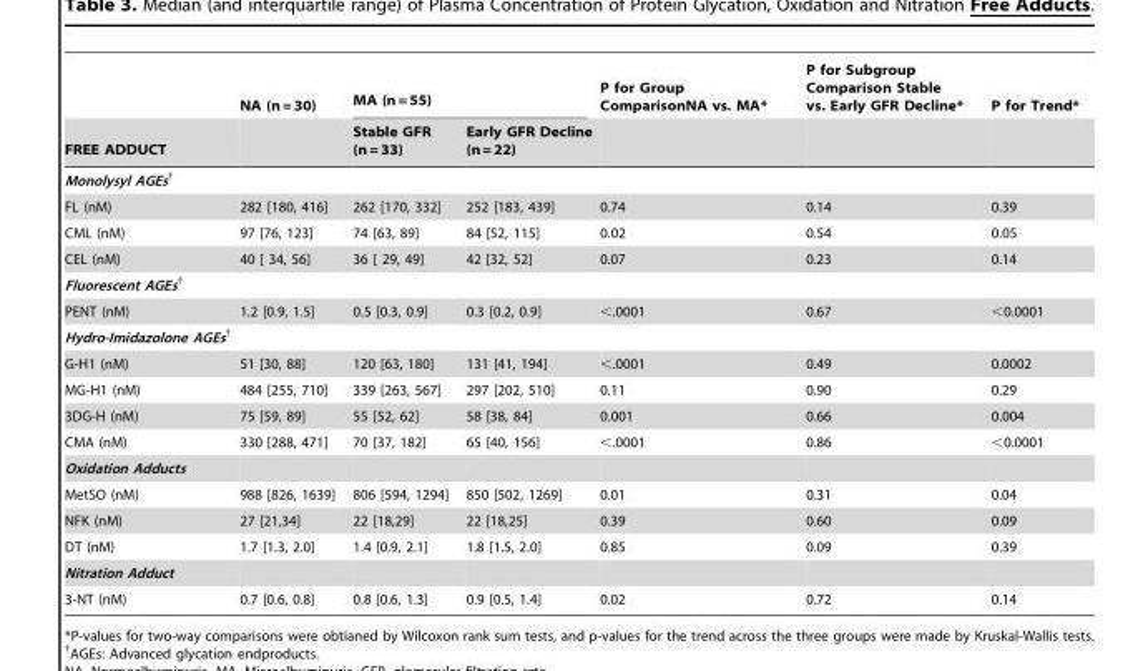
<table><thead><tr><td rowspan="2">FREE ADDUCT</td><td rowspan="2">NA (n = 30)</td><td colspan="2">MA (n = 55)</td><td rowspan="2">P for Group ComparisonNA vs. MA*</td><td rowspan="2">P for Subgroup Comparison Stable vs. Early GFR Decline*</td><td rowspan="2">P for Trend*</td></tr><tr><td>Stable GFR (n = 33)</td><td>Early GFR Decline (n = 22)</td></tr></thead><tbody><tr><td colspan="7">Monolysyl AGEs†</td></tr><tr><td>FL (nM)</td><td>282 [180, 416]</td><td>262 [170, 332]</td><td>252 [183, 439]</td><td>0.74</td><td>0.14</td><td>0.39</td></tr><tr><td>CML (nM)</td><td>97 [76, 123]</td><td>74 [63, 89]</td><td>84 [52, 115]</td><td>0.02</td><td>0.54</td><td>0.05</td></tr><tr><td>CEL (nM)</td><td>40 [ 34, 56]</td><td>36 [ 29, 49]</td><td>42 [32, 52]</td><td>0.07</td><td>0.23</td><td>0.14</td></tr><tr><td colspan="7">Fluorescent AGEs†</td></tr><tr><td>PENT (nM)</td><td>1.2 [0.9, 1.5]</td><td>0.5 [0.3, 0.9]</td><td>0.3 [0.2, 0.9]</td><td>&lt;.0001</td><td>0.67</td><td>&lt;0.0001</td></tr><tr><td colspan="7">Hydro-Imidazolone AGEs†</td></tr><tr><td>G-H1 (nM)</td><td>51 [30, 88]</td><td>120 [63, 180]</td><td>131 [41, 194]</td><td>&lt;.0001</td><td>0.49</td><td>0.0002</td></tr><tr><td>MG-H1 (nM)</td><td>484 [255, 710]</td><td>339 [263, 567]</td><td>297 [202, 510]</td><td>0.11</td><td>0.90</td><td>0.29</td></tr><tr><td>3DG-H (nM)</td><td>75 [59, 89]</td><td>55 [52, 62]</td><td>58 [38, 84]</td><td>0.001</td><td>0.66</td><td>0.004</td></tr><tr><td>CMA (nM)</td><td>330 [288, 471]</td><td>70 [37, 182]</td><td>65 [40, 156]</td><td>&lt;.0001</td><td>0.86</td><td>&lt;0.0001</td></tr><tr><td colspan="7">Oxidation Adducts</td></tr><tr><td>MetSO (nM)</td><td>988 [826, 1639]</td><td>806 [594, 1294]</td><td>850 [502, 1269]</td><td>0.01</td><td>0.31</td><td>0.04</td></tr><tr><td>NFK (nM)</td><td>27 [21,34]</td><td>22 [18,29]</td><td>22 [18,25]</td><td>0.39</td><td>0.60</td><td>0.09</td></tr><tr><td>DT (nM)</td><td>1.7 [1.3, 2.0]</td><td>1.4 [0.9, 2.1]</td><td>1.8 [1.5, 2.0]</td><td>0.85</td><td>0.09</td><td>0.39</td></tr><tr><td colspan="7">Nitration Adduct</td></tr><tr><td>3-NT (nM)</td><td>0.7 [0.6, 0.8]</td><td>0.8 [0.6, 1.3]</td><td>0.9 [0.5, 1.4]</td><td>0.02</td><td>0.72</td><td>0.14</td></tr></tbody></table>